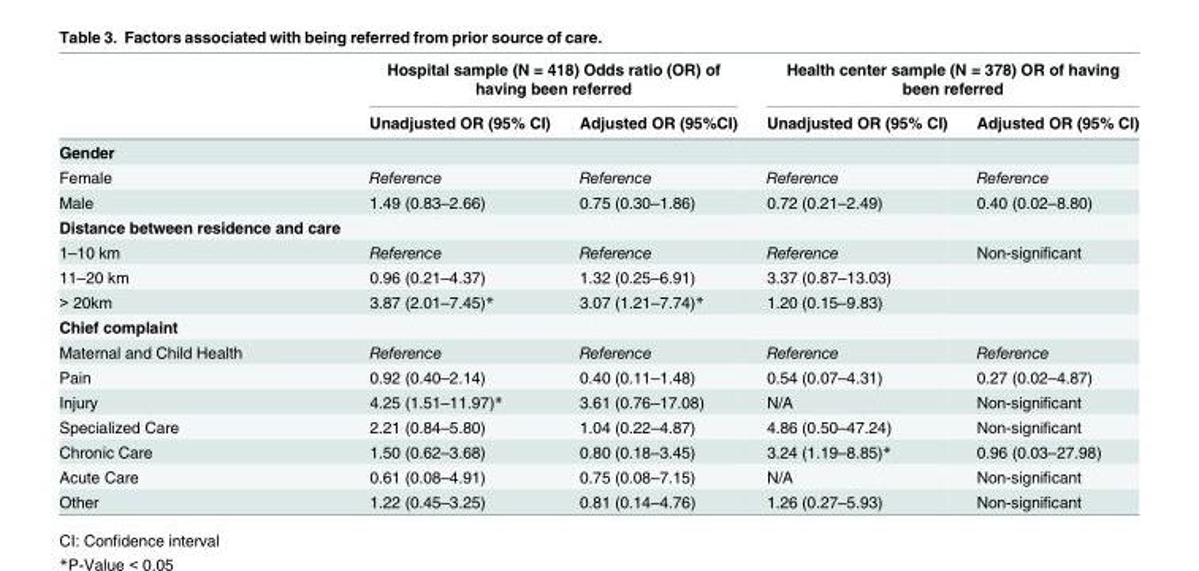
<table><thead><tr><td rowspan="2"></td><td colspan="2">Hospital sample (N = 418) Odds ratio (OR) of having been referred</td><td colspan="2">Health center sample (N = 378) OR of having been referred</td></tr><tr><td>Unadjusted OR (95% CI)</td><td>Adjusted OR (95%CI)</td><td>Unadjusted OR (95% CI)</td><td>Adjusted OR (95% CI)</td></tr></thead><tbody><tr><td colspan="5">Gender</td></tr><tr><td>Female</td><td>Reference</td><td>Reference</td><td>Reference</td><td>Reference</td></tr><tr><td>Male</td><td>1.49 (0.83–2.66)</td><td>0.75 (0.30–1.86)</td><td>0.72 (0.21–2.49)</td><td>0.40 (0.02–8.80)</td></tr><tr><td colspan="5">Distance between residence and care</td></tr><tr><td>1–10 km</td><td>Reference</td><td>Reference</td><td>Reference</td><td>Non-significant</td></tr><tr><td>11–20 km</td><td>0.96 (0.21–4.37)</td><td>1.32 (0.25–6.91)</td><td>3.37 (0.87–13.03)</td><td></td></tr><tr><td>&gt; 20km</td><td>3.87 (2.01–7.45)*</td><td>3.07 (1.21–7.74)*</td><td>1.20 (0.15–9.83)</td><td></td></tr><tr><td colspan="5">Chief complaint</td></tr><tr><td>Maternal and Child Health</td><td>Reference</td><td>Reference</td><td>Reference</td><td>Reference</td></tr><tr><td>Pain</td><td>0.92 (0.40–2.14)</td><td>0.40 (0.11–1.48)</td><td>0.54 (0.07–4.31)</td><td>0.27 (0.02–4.87)</td></tr><tr><td>Injury</td><td>4.25 (1.51–11.97)*</td><td>3.61 (0.76–17.08)</td><td>N/A</td><td>Non-significant</td></tr><tr><td>Specialized Care</td><td>2.21 (0.84–5.80)</td><td>1.04 (0.22–4.87)</td><td>4.86 (0.50–47.24)</td><td>Non-significant</td></tr><tr><td>Chronic Care</td><td>1.50 (0.62–3.68)</td><td>0.80 (0.18–3.45)</td><td>3.24 (1.19–8.85)*</td><td>0.96 (0.03–27.98)</td></tr><tr><td>Acute Care</td><td>0.61 (0.08–4.91)</td><td>0.75 (0.08–7.15)</td><td>N/A</td><td>Non-significant</td></tr><tr><td>Other</td><td>1.22 (0.45–3.25)</td><td>0.81 (0.14–4.76)</td><td>1.26 (0.27–5.93)</td><td>Non-significant</td></tr></tbody></table>